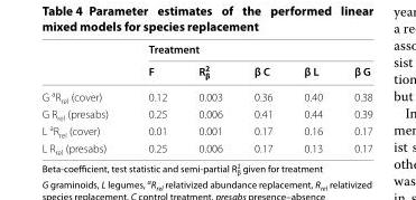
<table><thead><tr><td rowspan="2"></td><td colspan="5">Treatment</td></tr><tr><td>F</td><td>R<sub>β</sub> <sup>2</sup></td><td>β C</td><td>β L</td><td>β G</td></tr></thead><tbody><tr><td>G <sup>a</sup>R<sub>rel</sub> (cover)</td><td>0.12</td><td>0.003</td><td>0.36</td><td>0.40</td><td>0.38</td></tr><tr><td>G R<sub>rel</sub> (presabs)</td><td>0.25</td><td>0.006</td><td>0.41</td><td>0.44</td><td>0.39</td></tr><tr><td>L <sup>a</sup>R<sub>rel</sub> (cover)</td><td>0.01</td><td>0.001</td><td>0.17</td><td>0.16</td><td>0.17</td></tr><tr><td>L R<sub>rel</sub> (presabs)</td><td>0.25</td><td>0.006</td><td>0.17</td><td>0.13</td><td>0.17</td></tr></tbody></table>